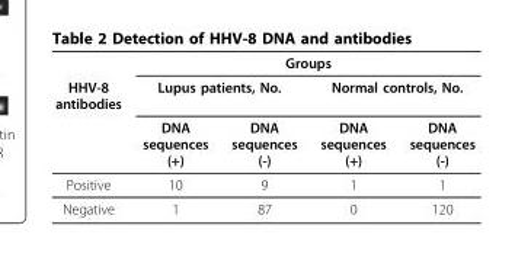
<table><thead><tr><td rowspan="3">HHV-8 antibodies</td><td colspan="4">Groups</td></tr><tr><td colspan="2">Lupus patients, No.</td><td colspan="2">Normal controls, No.</td></tr><tr><td>DNA sequences (+)</td><td>DNA sequences (-)</td><td>DNA sequences (+)</td><td>DNA sequences (-)</td></tr></thead><tbody><tr><td>Positive</td><td>10</td><td>9</td><td>1</td><td>1</td></tr><tr><td>Negative</td><td>1</td><td>87</td><td>0</td><td>120</td></tr></tbody></table>